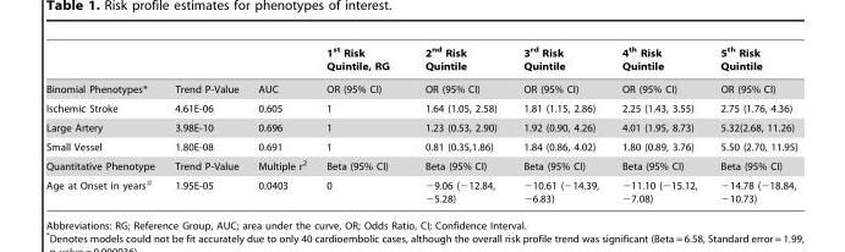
<table><thead><tr><td></td><td></td><td></td><td>1<sup>st</sup> Risk Quintile, RG</td><td>2<sup>nd</sup> Risk Quintile</td><td>3<sup>rd</sup> Risk Quintile</td><td>4<sup>th</sup> Risk Quintile</td><td>5<sup>th</sup> Risk Quintile</td></tr></thead><tbody><tr><td>Binomial Phenotypes*</td><td>Trend P-Value</td><td>AUC</td><td>OR (95% CI)</td><td>OR (95% CI)</td><td>OR (95% CI)</td><td>OR (95% CI)</td><td>OR (95% CI)</td></tr><tr><td>Ischemic Stroke</td><td>4.61E-06</td><td>0.605</td><td>1</td><td>1.64 (1.05, 2.58)</td><td>1.81 (1.15, 2.86)</td><td>2.25 (1.43, 3.55)</td><td>2.75 (1.76, 4.36)</td></tr><tr><td>Large Artery</td><td>3.98E-10</td><td>0.696</td><td>1</td><td>1.23 (0.53, 2.90)</td><td>1.92 (0.90, 4.26)</td><td>4.01 (1.95, 8.73)</td><td>5.32(2.68, 11.26)</td></tr><tr><td>Small Vessel</td><td>1.80E-08</td><td>0.691</td><td>1</td><td>0.81 (0.35,1.86)</td><td>1.84 (0.86, 4.02)</td><td>1.80 (0.89, 3.76)</td><td>5.50 (2.70, 11.95)</td></tr><tr><td>Quantitative Phenotype</td><td>Trend P-Value</td><td>Multiple r<sup>2</sup></td><td>Beta (95% CI)</td><td>Beta (95% CI)</td><td>Beta (95% CI)</td><td>Beta (95% CI)</td><td>Beta (95% CI)</td></tr><tr><td>Age at Onset in years#</td><td>1.95E-05</td><td>0.0403</td><td>0</td><td>−9.06 (−12.84, −5.28)</td><td>−10.61 (−14.39, −6.83)</td><td>−11.10 (−15.12, −7.08)</td><td>−14.78 (−18.84, −10.73)</td></tr></tbody></table>